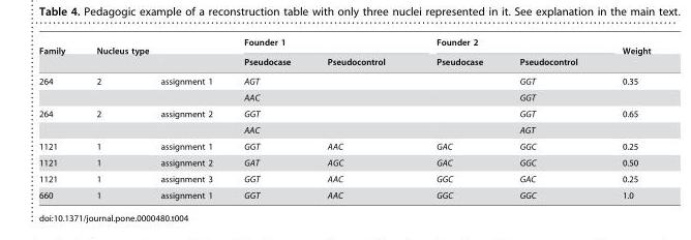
<table><thead><tr><td rowspan="2">Family</td><td rowspan="2">Nucleus type</td><td rowspan="2"></td><td colspan="2">Founder 1</td><td colspan="2">Founder 2</td><td rowspan="2">Weight</td></tr><tr><td>Pseudocase</td><td>Pseudocontrol</td><td>Pseudocase</td><td>Pseudocontrol</td></tr></thead><tbody><tr><td rowspan="2">264</td><td>2</td><td>assignment 1</td><td>AGT</td><td></td><td></td><td>GGT</td><td>0.35</td></tr><tr><td></td><td></td><td>AAC</td><td></td><td></td><td>GGT</td><td></td></tr><tr><td rowspan="2">264</td><td>2</td><td>assignment 2</td><td>GGT</td><td></td><td></td><td>GGT</td><td>0.65</td></tr><tr><td></td><td></td><td>AAC</td><td></td><td></td><td>AGT</td><td></td></tr><tr><td>1121</td><td>1</td><td>assignment 1</td><td>GGT</td><td>AAC</td><td>GAC</td><td>GGC</td><td>0.25</td></tr><tr><td>1121</td><td>1</td><td>assignment 2</td><td>GAT</td><td>AGC</td><td>GAC</td><td>GGC</td><td>0.50</td></tr><tr><td>1121</td><td>1</td><td>assignment 3</td><td>GGT</td><td>AAC</td><td>GGC</td><td>GAC</td><td>0.25</td></tr><tr><td>660</td><td>1</td><td>assignment 1</td><td>GGT</td><td>AAC</td><td>GGC</td><td>GGC</td><td>1.0</td></tr></tbody></table>